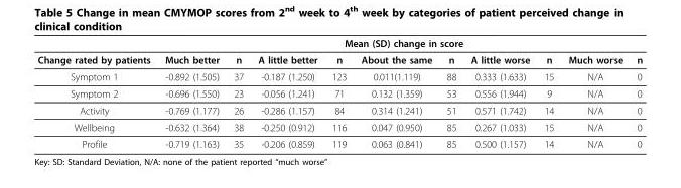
<table><thead><tr><td rowspan="2">Change rated by patients</td><td colspan="10">Mean (SD) change in score</td></tr><tr><td>Much better</td><td>n</td><td>A little better</td><td>n</td><td>About the same</td><td>n</td><td>A little worse</td><td>n</td><td>Much worse</td><td>n</td></tr></thead><tbody><tr><td>Symptom 1</td><td>-0.892 (1.505)</td><td>37</td><td>-0.187 (1.250)</td><td>123</td><td>0.011(1.119)</td><td>88</td><td>0.333 (1.633)</td><td>15</td><td>N/A</td><td>0</td></tr><tr><td>Symptom 2</td><td>-0.696 (1.550)</td><td>23</td><td>-0.056 (1.241)</td><td>71</td><td>0.132 (1.359)</td><td>53</td><td>0.556 (1.944)</td><td>9</td><td>N/A</td><td>0</td></tr><tr><td>Activity</td><td>-0.769 (1.177)</td><td>26</td><td>-0.286 (1.157)</td><td>84</td><td>0.314 (1.241)</td><td>51</td><td>0.571 (1.742)</td><td>14</td><td>N/A</td><td>0</td></tr><tr><td>Wellbeing</td><td>-0.632 (1.364)</td><td>38</td><td>-0.250 (0.912)</td><td>116</td><td>0.047 (0.950)</td><td>85</td><td>0.267 (1.033)</td><td>15</td><td>N/A</td><td>0</td></tr><tr><td>Profile</td><td>-0.719 (1.163)</td><td>35</td><td>-0.206 (0.859)</td><td>119</td><td>0.063 (0.841)</td><td>85</td><td>0.500 (1.157)</td><td>14</td><td>N/A</td><td>0</td></tr></tbody></table>